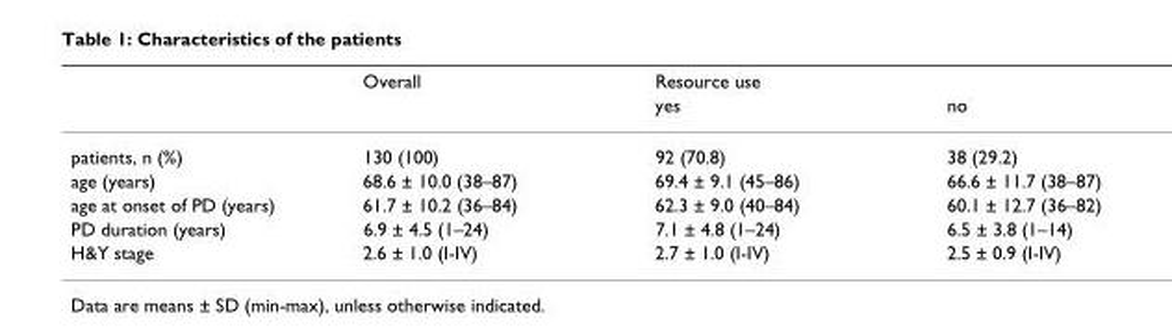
<table><thead><tr><td rowspan="2"></td><td rowspan="2">Overall</td><td rowspan="2">Resource use yes</td><td rowspan="2">no</td></tr><tr></tr></thead><tbody><tr><td>patients, n (%)</td><td>130 (100)</td><td>92 (70.8)</td><td>38 (29.2)</td></tr><tr><td>age (years)</td><td>68.6 ± 10.0 (38–87)</td><td>69.4 ± 9.1 (45–86)</td><td>66.6 ± 11.7 (38–87)</td></tr><tr><td>age at onset of PD (years)</td><td>61.7 ± 10.2 (36–84)</td><td>62.3 ± 9.0 (40–84)</td><td>60.1 ± 12.7 (36–82)</td></tr><tr><td>PD duration (years)</td><td>6.9 ± 4.5 (1–24)</td><td>7.1 ± 4.8 (1–24)</td><td>6.5 ± 3.8 (1–14)</td></tr><tr><td>H&amp;Y stage</td><td>2.6 ± 1.0 (I-IV)</td><td>2.7 ± 1.0 (I-IV)</td><td>2.5 ± 0.9 (I-IV)</td></tr></tbody></table>